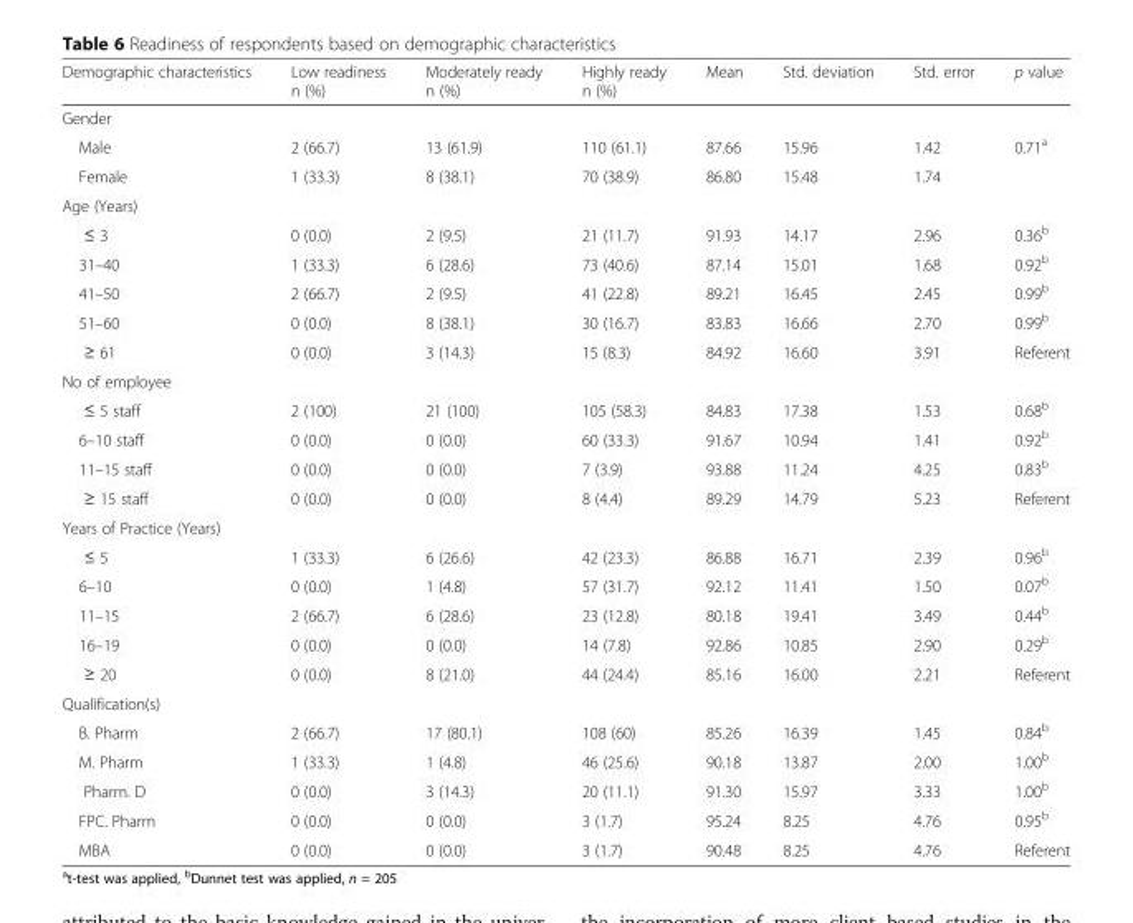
<table><thead><tr><td>Demographic characteristics</td><td>Low readiness n (%)</td><td>Moderately ready n (%)</td><td>Highly ready n (%)</td><td>Mean</td><td>Std. deviation</td><td>Std. error</td><td>p value</td></tr></thead><tbody><tr><td colspan="8">Gender</td></tr><tr><td>Male</td><td>2 (66.7)</td><td>13 (61.9)</td><td>110 (61.1)</td><td>87.66</td><td>15.96</td><td>1.42</td><td>0.71<sup>a</sup></td></tr><tr><td>Female</td><td>1 (33.3)</td><td>8 (38.1)</td><td>70 (38.9)</td><td>86.80</td><td>15.48</td><td>1.74</td><td></td></tr><tr><td colspan="8">Age (Years)</td></tr><tr><td>≤ 3</td><td>0 (0.0)</td><td>2 (9.5)</td><td>21 (11.7)</td><td>91.93</td><td>14.17</td><td>2.96</td><td>0.36<sup>b</sup></td></tr><tr><td>31–40</td><td>1 (33.3)</td><td>6 (28.6)</td><td>73 (40.6)</td><td>87.14</td><td>15.01</td><td>1.68</td><td>0.92<sup>b</sup></td></tr><tr><td>41–50</td><td>2 (66.7)</td><td>2 (9.5)</td><td>41 (22.8)</td><td>89.21</td><td>16.45</td><td>2.45</td><td>0.99<sup>b</sup></td></tr><tr><td>51–60</td><td>0 (0.0)</td><td>8 (38.1)</td><td>30 (16.7)</td><td>83.83</td><td>16.66</td><td>2.70</td><td>0.99<sup>b</sup></td></tr><tr><td>≥ 61</td><td>0 (0.0)</td><td>3 (14.3)</td><td>15 (8.3)</td><td>84.92</td><td>16.60</td><td>3.91</td><td>Referent</td></tr><tr><td colspan="8">No of employee</td></tr><tr><td>≤ 5 staff</td><td>2 (100)</td><td>21 (100)</td><td>105 (58.3)</td><td>84.83</td><td>17.38</td><td>1.53</td><td>0.68<sup>b</sup></td></tr><tr><td>6–10 staff</td><td>0 (0.0)</td><td>0 (0.0)</td><td>60 (33.3)</td><td>91.67</td><td>10.94</td><td>1.41</td><td>0.92<sup>b</sup></td></tr><tr><td>11–15 staff</td><td>0 (0.0)</td><td>0 (0.0)</td><td>7 (3.9)</td><td>93.88</td><td>11.24</td><td>4.25</td><td>0.83<sup>b</sup></td></tr><tr><td>≥ 15 staff</td><td>0 (0.0)</td><td>0 (0.0)</td><td>8 (4.4)</td><td>89.29</td><td>14.79</td><td>5.23</td><td>Referent</td></tr><tr><td colspan="8">Years of Practice (Years)</td></tr><tr><td>≤ 5</td><td>1 (33.3)</td><td>6 (26.6)</td><td>42 (23.3)</td><td>86.88</td><td>16.71</td><td>2.39</td><td>0.96<sup>b</sup></td></tr><tr><td>6–10</td><td>0 (0.0)</td><td>1 (4.8)</td><td>57 (31.7)</td><td>92.12</td><td>11.41</td><td>1.50</td><td>0.07<sup>b</sup></td></tr><tr><td>11–15</td><td>2 (66.7)</td><td>6 (28.6)</td><td>23 (12.8)</td><td>80.18</td><td>19.41</td><td>3.49</td><td>0.44<sup>b</sup></td></tr><tr><td>16–19</td><td>0 (0.0)</td><td>0 (0.0)</td><td>14 (7.8)</td><td>92.86</td><td>10.85</td><td>2.90</td><td>0.29<sup>b</sup></td></tr><tr><td>≥ 20</td><td>0 (0.0)</td><td>8 (21.0)</td><td>44 (24.4)</td><td>85.16</td><td>16.00</td><td>2.21</td><td>Referent</td></tr><tr><td colspan="8">Qualification(s)</td></tr><tr><td>B. Pharm</td><td>2 (66.7)</td><td>17 (80.1)</td><td>108 (60)</td><td>85.26</td><td>16.39</td><td>1.45</td><td>0.84<sup>b</sup></td></tr><tr><td>M. Pharm</td><td>1 (33.3)</td><td>1 (4.8)</td><td>46 (25.6)</td><td>90.18</td><td>13.87</td><td>2.00</td><td>1.00<sup>b</sup></td></tr><tr><td>Pharm. D</td><td>0 (0.0)</td><td>3 (14.3)</td><td>20 (11.1)</td><td>91.30</td><td>15.97</td><td>3.33</td><td>1.00<sup>b</sup></td></tr><tr><td>FPC. Pharm</td><td>0 (0.0)</td><td>0 (0.0)</td><td>3 (1.7)</td><td>95.24</td><td>8.25</td><td>4.76</td><td>0.95<sup>b</sup></td></tr><tr><td>MBA</td><td>0 (0.0)</td><td>0 (0.0)</td><td>3 (1.7)</td><td>90.48</td><td>8.25</td><td>4.76</td><td>Referent</td></tr></tbody></table>